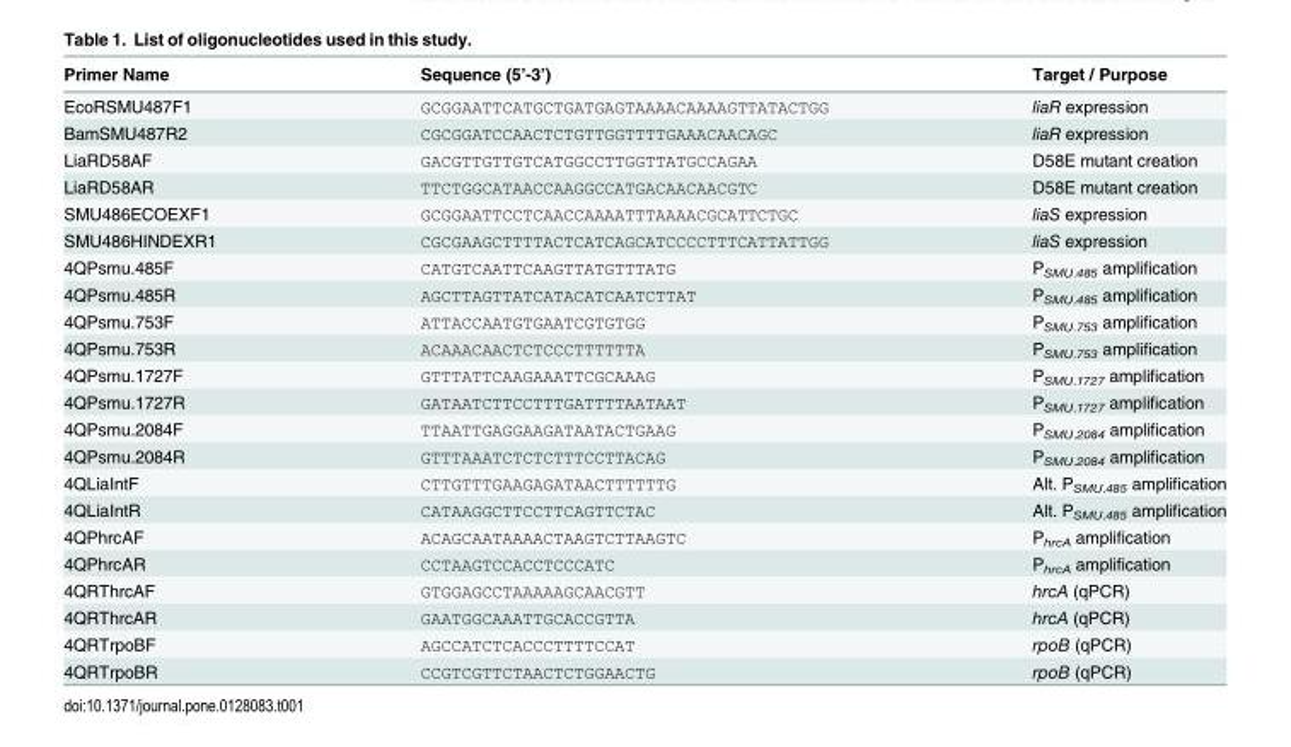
<table><thead><tr><td>Primer Name</td><td>Sequence (5’-3’)</td><td>Target / Purpose</td></tr></thead><tbody><tr><td>EcoRSMU487F1</td><td>GCGGAATTCATGCTGATGAGTAAAACAAAAGTTATACTGG</td><td>liaR expression</td></tr><tr><td>BamSMU487R2</td><td>CGCGGATCCAACTCTGTTGGTTTTGAAACAACAGC</td><td>liaR expression</td></tr><tr><td>LiaRD58AF</td><td>GACGTTGTTGTCATGGCCTTGGTTATGCCAGAA</td><td>D58E mutant creation</td></tr><tr><td>LiaRD58AR</td><td>TTCTGGCATAACCAAGGCCATGACAACAACGTC</td><td>D58E mutant creation</td></tr><tr><td>SMU486ECOEXF1</td><td>GCGGAATTCCTCAACCAAAATTTAAAACGCATTCTGC</td><td>liaS expression</td></tr><tr><td>SMU486HINDEXR1</td><td>CGCGAAGCTTTTACTCATCAGCATCCCCTTTCATTATTGG</td><td>liaS expression</td></tr><tr><td>4QPsmu.485F</td><td>CATGTCAATTCAAGTTATGTTTATG</td><td>P<sub>SMU.485</sub> amplification</td></tr><tr><td>4QPsmu.485R</td><td>AGCTTAGTTATCATACATCAATCTTAT</td><td>P<sub>SMU.485</sub> amplification</td></tr><tr><td>4QPsmu.753F</td><td>ATTACCAATGTGAATCGTGTGG</td><td>P<sub>SMU.753</sub> amplification</td></tr><tr><td>4QPsmu.753R</td><td>ACAAACAACTCTCCCTTTTTTA</td><td>P<sub>SMU.753</sub> amplification</td></tr><tr><td>4QPsmu.1727F</td><td>GTTTATTCAAGAAATTCGCAAAG</td><td>P<sub>SMU.1727</sub> amplification</td></tr><tr><td>4QPsmu.1727R</td><td>GATAATCTTCCTTTGATTTTAATAAT</td><td>P<sub>SMU.1727</sub> amplification</td></tr><tr><td>4QPsmu.2084F</td><td>TTAATTGAGGAAGATAATACTGAAG</td><td>P<sub>SMU.2084</sub> amplification</td></tr><tr><td>4QPsmu.2084R</td><td>GTTTAAATCTCTCTTTCCTTACAG</td><td>P<sub>SMU.2084</sub> amplification</td></tr><tr><td>4QLiaIntF</td><td>CTTGTTTGAAGAGATAACTTTTTTG</td><td>Alt. P<sub>SMU.485</sub> amplification</td></tr><tr><td>4QLiaIntR</td><td>CATAAGGCTTCCTTCAGTTCTAC</td><td>Alt. P<sub>SMU.485</sub> amplification</td></tr><tr><td>4QPhrcAF</td><td>ACAGCAATAAAACTAAGTCTTAAGTC</td><td>P<sub>hrcA</sub> amplification</td></tr><tr><td>4QPhrcAR</td><td>CCTAAGTCCACCTCCCATC</td><td>P<sub>hrcA</sub> amplification</td></tr><tr><td>4QRThrcAF</td><td>GTGGAGCCTAAAAAGCAACGTT</td><td>hrcA (qPCR)</td></tr><tr><td>4QRThrcAR</td><td>GAATGGCAAATTGCACCGTTA</td><td>hrcA (qPCR)</td></tr><tr><td>4QRTrpoBF</td><td>AGCCATCTCACCCTTTTCCAT</td><td>rpoB (qPCR)</td></tr><tr><td>4QRTrpoBR</td><td>CCGTCGTTCTAACTCTGGAACTG</td><td>rpoB (qPCR)</td></tr></tbody></table>